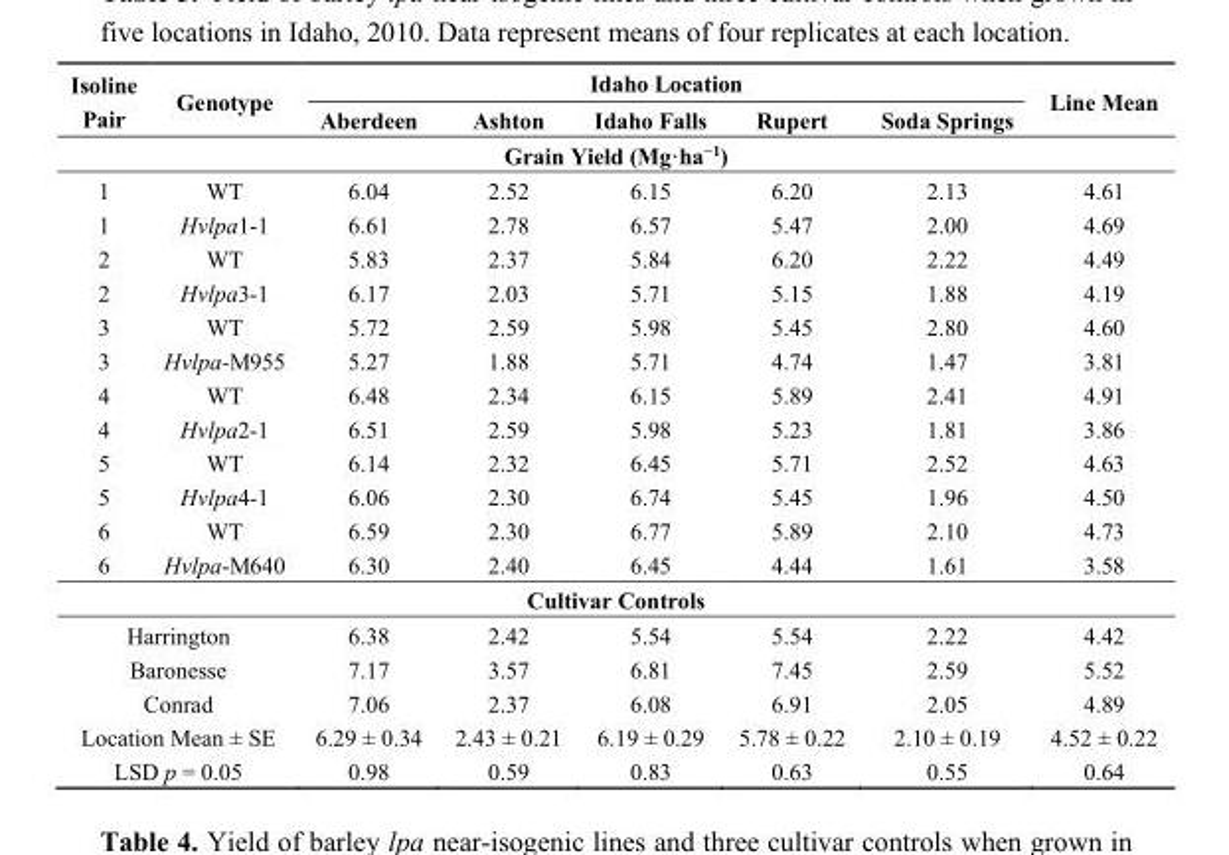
<table><thead><tr><td rowspan="2">Isoline Pair</td><td rowspan="2">Genotype</td><td colspan="5">Idaho Location</td><td rowspan="2">Line Mean</td></tr><tr><td>Aberdeen</td><td>Ashton</td><td>Idaho Falls</td><td>Rupert</td><td>Soda Springs</td></tr></thead><tbody><tr><td colspan="8">Grain Yield (Mg·ha<sup>−1</sup>)</td></tr><tr><td>1</td><td>WT</td><td>6.04</td><td>2.52</td><td>6.15</td><td>6.20</td><td>2.13</td><td>4.61</td></tr><tr><td>1</td><td>Hvlpa1-1</td><td>6.61</td><td>2.78</td><td>6.57</td><td>5.47</td><td>2.00</td><td>4.69</td></tr><tr><td>2</td><td>WT</td><td>5.83</td><td>2.37</td><td>5.84</td><td>6.20</td><td>2.22</td><td>4.49</td></tr><tr><td>2</td><td>Hvlpa3-1</td><td>6.17</td><td>2.03</td><td>5.71</td><td>5.15</td><td>1.88</td><td>4.19</td></tr><tr><td>3</td><td>WT</td><td>5.72</td><td>2.59</td><td>5.98</td><td>5.45</td><td>2.80</td><td>4.60</td></tr><tr><td>3</td><td>Hvlpa-M955</td><td>5.27</td><td>1.88</td><td>5.71</td><td>4.74</td><td>1.47</td><td>3.81</td></tr><tr><td>4</td><td>WT</td><td>6.48</td><td>2.34</td><td>6.15</td><td>5.89</td><td>2.41</td><td>4.91</td></tr><tr><td>4</td><td>Hvlpa2-1</td><td>6.51</td><td>2.59</td><td>5.98</td><td>5.23</td><td>1.81</td><td>3.86</td></tr><tr><td>5</td><td>WT</td><td>6.14</td><td>2.32</td><td>6.45</td><td>5.71</td><td>2.52</td><td>4.63</td></tr><tr><td>5</td><td>Hvlpa4-1</td><td>6.06</td><td>2.30</td><td>6.74</td><td>5.45</td><td>1.96</td><td>4.50</td></tr><tr><td>6</td><td>WT</td><td>6.59</td><td>2.30</td><td>6.77</td><td>5.89</td><td>2.10</td><td>4.73</td></tr><tr><td>6</td><td>Hvlpa-M640</td><td>6.30</td><td>2.40</td><td>6.45</td><td>4.44</td><td>1.61</td><td>3.58</td></tr><tr><td colspan="8">Cultivar Controls</td></tr><tr><td colspan="2">Harrington</td><td>6.38</td><td>2.42</td><td>5.54</td><td>5.54</td><td>2.22</td><td>4.42</td></tr><tr><td colspan="2">Baronesse</td><td>7.17</td><td>3.57</td><td>6.81</td><td>7.45</td><td>2.59</td><td>5.52</td></tr><tr><td colspan="2">Conrad</td><td>7.06</td><td>2.37</td><td>6.08</td><td>6.91</td><td>2.05</td><td>4.89</td></tr><tr><td colspan="2">Location Mean ± SE</td><td>6.29 ± 0.34</td><td>2.43 ± 0.21</td><td>6.19 ± 0.29</td><td>5.78 ± 0.22</td><td>2.10 ± 0.19</td><td>4.52 ± 0.22</td></tr><tr><td colspan="2">LSD p = 0.05</td><td>0.98</td><td>0.59</td><td>0.83</td><td>0.63</td><td>0.55</td><td>0.64</td></tr></tbody></table>